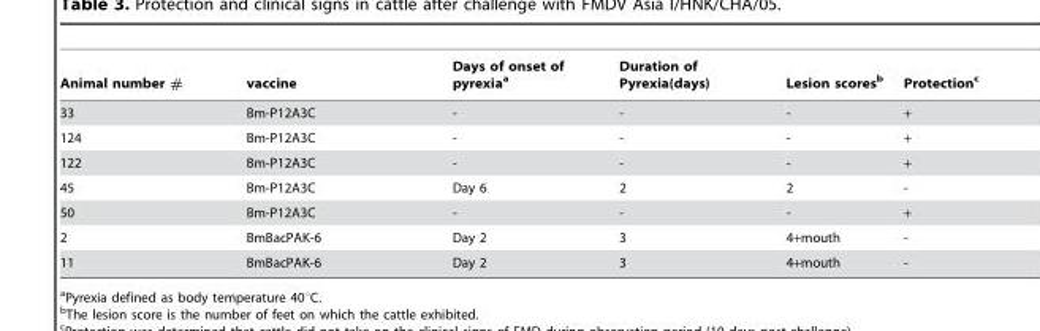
<table><thead><tr><td>Animal number #</td><td>vaccine</td><td>Days of onset of pyrexia<sup>a</sup></td><td>Duration of Pyrexia(days)</td><td>Lesion scores<sup>b</sup></td><td>Protection<sup>c</sup></td></tr></thead><tbody><tr><td>33</td><td>Bm-P12A3C</td><td>-</td><td>-</td><td>-</td><td>+</td></tr><tr><td>124</td><td>Bm-P12A3C</td><td>-</td><td>-</td><td>-</td><td>+</td></tr><tr><td>122</td><td>Bm-P12A3C</td><td>-</td><td>-</td><td>-</td><td>+</td></tr><tr><td>45</td><td>Bm-P12A3C</td><td>Day 6</td><td>2</td><td>2</td><td>-</td></tr><tr><td>50</td><td>Bm-P12A3C</td><td>-</td><td>-</td><td>-</td><td>+</td></tr><tr><td>2</td><td>BmBacPAK-6</td><td>Day 2</td><td>3</td><td>4+mouth</td><td>-</td></tr><tr><td>11</td><td>BmBacPAK-6</td><td>Day 2</td><td>3</td><td>4+mouth</td><td>-</td></tr></tbody></table>